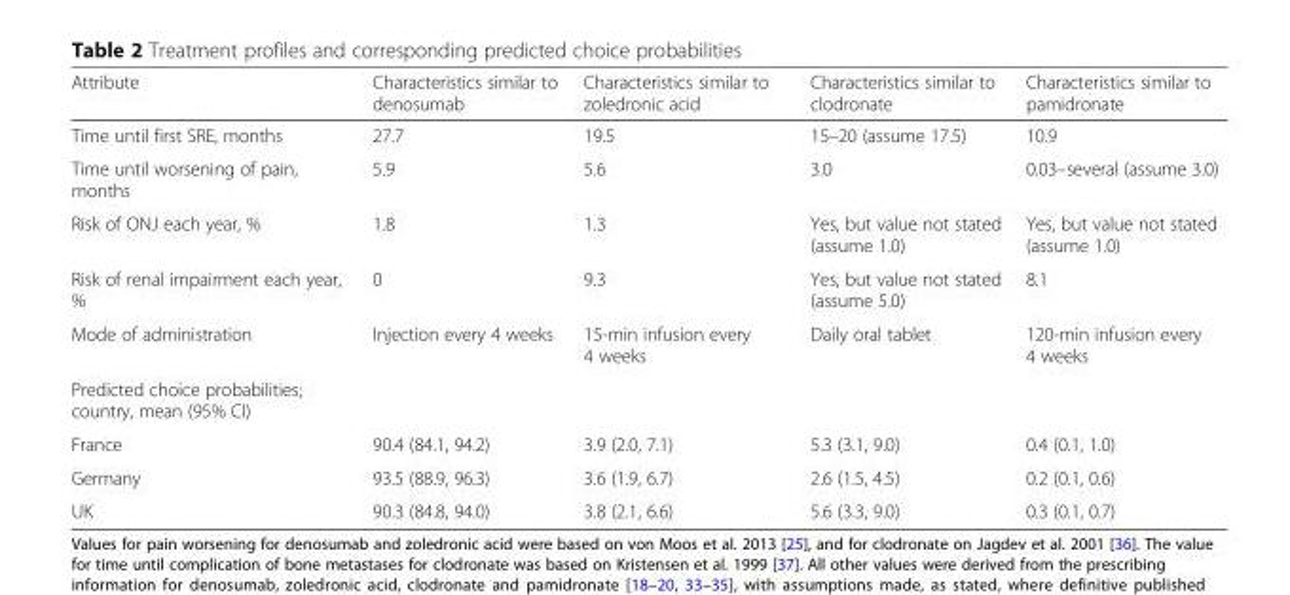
<table><thead><tr><td>Attribute</td><td>Characteristics similar to denosumab</td><td>Characteristics similar to zoledronic acid</td><td>Characteristics similar to clodronate</td><td>Characteristics similar to pamidronate</td></tr></thead><tbody><tr><td>Time until first SRE, months</td><td>27.7</td><td>19.5</td><td>15–20 (assume 17.5)</td><td>10.9</td></tr><tr><td>Time until worsening of pain, months</td><td>5.9</td><td>5.6</td><td>3.0</td><td>0.03–several (assume 3.0)</td></tr><tr><td>Risk of ONJ each year, %</td><td>1.8</td><td>1.3</td><td>Yes, but value not stated (assume 1.0)</td><td>Yes, but value not stated (assume 1.0)</td></tr><tr><td>Risk of renal impairment each year, %</td><td>0</td><td>9.3</td><td>Yes, but value not stated (assume 5.0)</td><td>8.1</td></tr><tr><td>Mode of administration</td><td>Injection every 4 weeks</td><td>15-min infusion every 4 weeks</td><td>Daily oral tablet</td><td>120-min infusion every 4 weeks</td></tr><tr><td colspan="5">Predicted choice probabilities; country, mean (95% CI)</td></tr><tr><td>France</td><td>90.4 (84.1, 94.2)</td><td>3.9 (2.0, 7.1)</td><td>5.3 (3.1, 9.0)</td><td>0.4 (0.1, 1.0)</td></tr><tr><td>Germany</td><td>93.5 (88.9, 96.3)</td><td>3.6 (1.9, 6.7)</td><td>2.6 (1.5, 4.5)</td><td>0.2 (0.1, 0.6)</td></tr><tr><td>UK</td><td>90.3 (84.8, 94.0)</td><td>3.8 (2.1, 6.6)</td><td>5.6 (3.3, 9.0)</td><td>0.3 (0.1, 0.7)</td></tr></tbody></table>